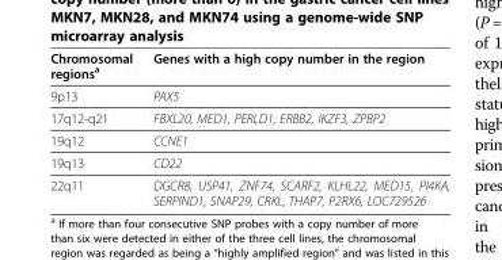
<table><thead><tr><td>Chromosomal regions<sup>a</sup></td><td>Genes with a high copy number in the region</td></tr></thead><tbody><tr><td>9p13</td><td>PAX5</td></tr><tr><td>17q12-q21</td><td>FBXL20, MED1, PERLD1, ERBB2, IKZF3, ZPBP2</td></tr><tr><td>19q12</td><td>CCNE1</td></tr><tr><td>19q13</td><td>CD22</td></tr><tr><td>22q11</td><td>DGCR8, USP41, ZNF74, SCARF2, KLHL22, MED15, PI4KA, SERPIND1, SNAP29, CRKL, THAP7, P2RX6, LOC729526</td></tr></tbody></table>